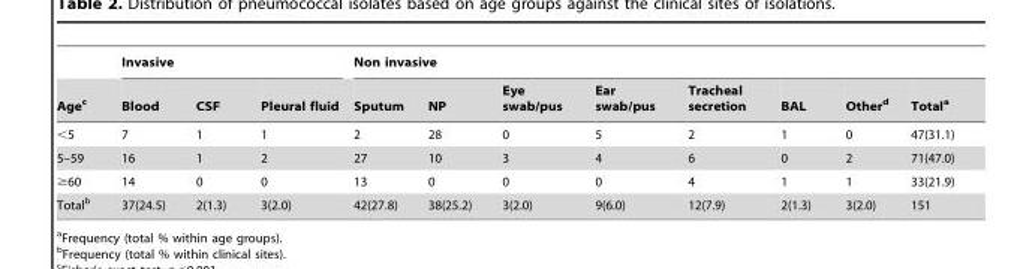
<table><thead><tr><td rowspan="2">Age<sup>c</sup></td><td colspan="3">Invasive</td><td colspan="8">Non invasive</td></tr><tr><td>Blood</td><td>CSF</td><td>Pleural fluid</td><td>Sputum</td><td>NP</td><td>Eye swab/pus</td><td>Ear swab/pus</td><td>Tracheal secretion</td><td>BAL</td><td>Other<sup>d</sup></td><td>Total<sup>a</sup></td></tr></thead><tbody><tr><td>&lt;5</td><td>7</td><td>1</td><td>1</td><td>2</td><td>28</td><td>0</td><td>5</td><td>2</td><td>1</td><td>0</td><td>47(31.1)</td></tr><tr><td>5–59</td><td>16</td><td>1</td><td>2</td><td>27</td><td>10</td><td>3</td><td>4</td><td>6</td><td>0</td><td>2</td><td>71(47.0)</td></tr><tr><td>≥60</td><td>14</td><td>0</td><td>0</td><td>13</td><td>0</td><td>0</td><td>0</td><td>4</td><td>1</td><td>1</td><td>33(21.9)</td></tr><tr><td>Total<sup>b</sup></td><td>37(24.5)</td><td>2(1.3)</td><td>3(2.0)</td><td>42(27.8)</td><td>38(25.2)</td><td>3(2.0)</td><td>9(6.0)</td><td>12(7.9)</td><td>2(1.3)</td><td>3(2.0)</td><td>151</td></tr></tbody></table>